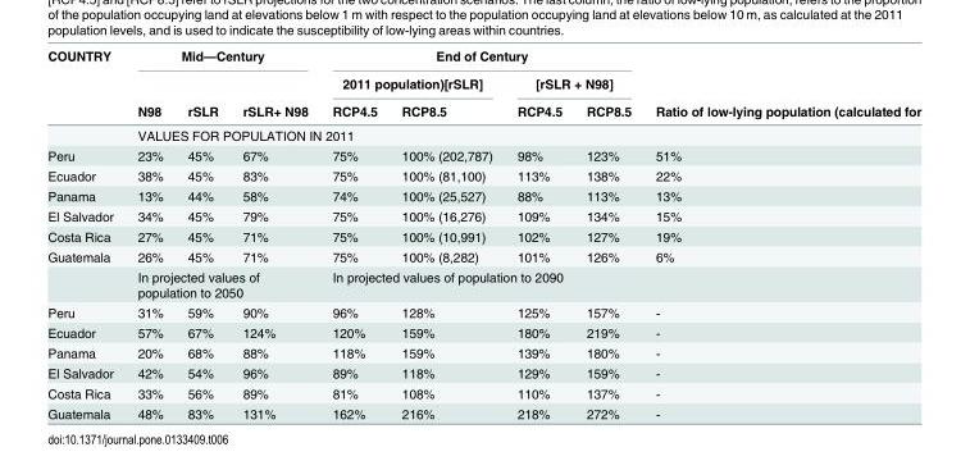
<table><thead><tr><td rowspan="3">COUNTRY</td><td colspan="3">Mid—Century</td><td colspan="4">End of Century</td><td rowspan="3">Ratio of low-lying population (calculated for</td></tr><tr><td rowspan="2">N98</td><td rowspan="2">rSLR</td><td rowspan="2">rSLR+ N98</td><td colspan="2">2011 population)[rSLR]</td><td colspan="2">[rSLR + N98]</td></tr><tr><td>RCP4.5</td><td>RCP8.5</td><td>RCP4.5</td><td>RCP8.5</td></tr></thead><tbody><tr><td></td><td colspan="7">VALUES FOR POPULATION IN 2011</td><td></td></tr><tr><td>Peru</td><td>23%</td><td>45%</td><td>67%</td><td>75%</td><td>100% (202,787)</td><td>98%</td><td>123%</td><td>51%</td></tr><tr><td>Ecuador</td><td>38%</td><td>45%</td><td>83%</td><td>75%</td><td>100% (81,100)</td><td>113%</td><td>138%</td><td>22%</td></tr><tr><td>Panama</td><td>13%</td><td>44%</td><td>58%</td><td>74%</td><td>100% (25,527)</td><td>88%</td><td>113%</td><td>13%</td></tr><tr><td>El Salvador</td><td>34%</td><td>45%</td><td>79%</td><td>75%</td><td>100% (16,276)</td><td>109%</td><td>134%</td><td>15%</td></tr><tr><td>Costa Rica</td><td>27%</td><td>45%</td><td>71%</td><td>75%</td><td>100% (10,991)</td><td>102%</td><td>127%</td><td>19%</td></tr><tr><td rowspan="2">Guatemala</td><td>26%</td><td>45%</td><td>71%</td><td>75%</td><td>100% (8,282)</td><td>101%</td><td>126%</td><td>6%</td></tr><tr><td colspan="3">In projected values of population to 2050</td><td colspan="4">In projected values of population to 2090</td><td></td></tr><tr><td>Peru</td><td>31%</td><td>59%</td><td>90%</td><td>96%</td><td>128%</td><td>125%</td><td>157%</td><td>-</td></tr><tr><td>Ecuador</td><td>57%</td><td>67%</td><td>124%</td><td>120%</td><td>159%</td><td>180%</td><td>219%</td><td>-</td></tr><tr><td>Panama</td><td>20%</td><td>68%</td><td>88%</td><td>118%</td><td>159%</td><td>139%</td><td>180%</td><td>-</td></tr><tr><td>El Salvador</td><td>42%</td><td>54%</td><td>96%</td><td>89%</td><td>118%</td><td>129%</td><td>159%</td><td>-</td></tr><tr><td>Costa Rica</td><td>33%</td><td>56%</td><td>89%</td><td>81%</td><td>108%</td><td>110%</td><td>137%</td><td>-</td></tr><tr><td>Guatemala</td><td>48%</td><td>83%</td><td>131%</td><td>162%</td><td>216%</td><td>218%</td><td>272%</td><td>-</td></tr></tbody></table>